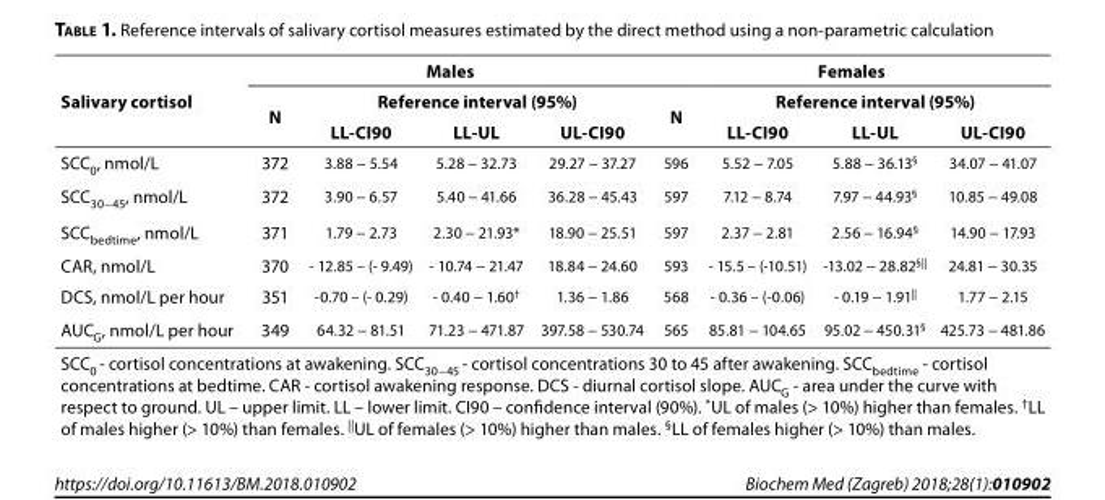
<table><thead><tr><td rowspan="3">Salivary cortisol</td><td colspan="4">Males</td><td colspan="4">Females</td></tr><tr><td rowspan="2">N</td><td colspan="3">Reference interval (95%)</td><td rowspan="2">N</td><td colspan="3">Reference interval (95%)</td></tr><tr><td>LL-CI90</td><td>LL-UL</td><td>UL-CI90</td><td>LL-CI90</td><td>LL-UL</td><td>UL-CI90</td></tr></thead><tbody><tr><td>SCC<sub>0</sub>, nmol/L</td><td>372</td><td>3.88 − 5.54</td><td>5.28 − 32.73</td><td>29.27 − 37.27</td><td>596</td><td>5.52 − 7.05</td><td>5.88 − 36.13<sup>§</sup></td><td>34.07 − 41.07</td></tr><tr><td>SCC<sub>30−45</sub>, nmol/L</td><td>372</td><td>3.90 − 6.57</td><td>5.40 − 41.66</td><td>36.28 − 45.43</td><td>597</td><td>7.12 − 8.74</td><td>7.97 − 44.93<sup>§</sup></td><td>10.85 − 49.08</td></tr><tr><td>SCC<sub>bedtime</sub>, nmol/L</td><td>371</td><td>1.79 − 2.73</td><td>2.30 − 21.93*</td><td>18.90 − 25.51</td><td>597</td><td>2.37 − 2.81</td><td>2.56 − 16.94<sup>§</sup></td><td>14.90 − 17.93</td></tr><tr><td>CAR, nmol/L</td><td>370</td><td>- 12.85 – (- 9.49)</td><td>- 10.74 − 21.47</td><td>18.84 − 24.60</td><td>593</td><td>- 15.5 – (-10.51)</td><td>-13.02 − 28.82<sup>§||</sup></td><td>24.81 − 30.35</td></tr><tr><td>DCS, nmol/L per hour</td><td>351</td><td>-0.70 – (- 0.29)</td><td>- 0.40 − 1.60<sup>†</sup></td><td>1.36 − 1.86</td><td>568</td><td>- 0.36 – (-0.06)</td><td>- 0.19 − 1.91<sup>||</sup></td><td>1.77 − 2.15</td></tr><tr><td>AUC<sub>G</sub>, nmol/L per hour</td><td>349</td><td>64.32 − 81.51</td><td>71.23 − 471.87</td><td>397.58 − 530.74</td><td>565</td><td>85.81 − 104.65</td><td>95.02 − 450.31<sup>§</sup></td><td>425.73 − 481.86</td></tr><tr><td colspan="9">SCC<sub>0</sub> - cortisol concentrations at awakening. SCC<sub>30−45</sub> - cortisol concentrations 30 to 45 after awakening. SCC<sub>bedtime</sub> - cortisol concentrations at bedtime. CAR - cortisol awakening response. DCS - diurnal cortisol slope. AUC<sub>G</sub> - area under the curve with respect to ground. UL – upper limit. LL – lower limit. CI90 – confidence interval (90%). *UL of males (&gt; 10%) higher than females. <sup>†</sup>LL of males higher (&gt; 10%) than females. <sup>||</sup>UL of females (&gt; 10%) higher than males. <sup>§</sup>LL of females higher (&gt; 10%) than males.</td></tr></tbody></table>